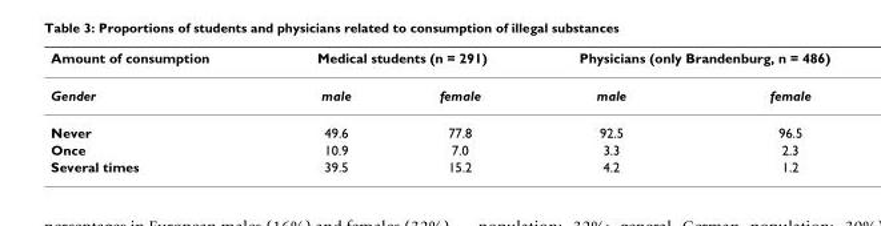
<table><thead><tr><td rowspan="2">Amount of consumption Gender</td><td colspan="2">Medical students (n = 291)</td><td colspan="2">Physicians (only Brandenburg, n = 486)</td></tr><tr><td>male</td><td>female</td><td>male</td><td>female</td></tr></thead><tbody><tr><td>Never</td><td>49.6</td><td>77.8</td><td>92.5</td><td>96.5</td></tr><tr><td>Once</td><td>10.9</td><td>7.0</td><td>3.3</td><td>2.3</td></tr><tr><td>Several times</td><td>39.5</td><td>15.2</td><td>4.2</td><td>1.2</td></tr></tbody></table>